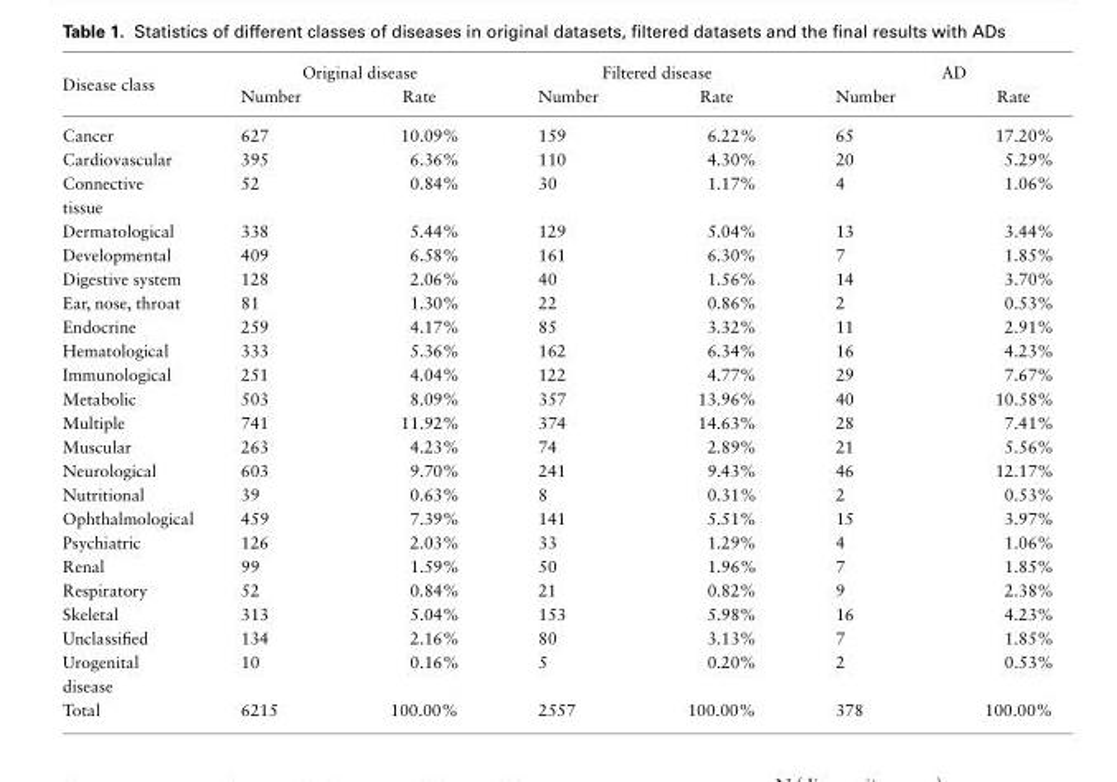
<table><thead><tr><td rowspan="2">Disease class</td><td colspan="2">Original disease</td><td colspan="2">Filtered disease</td><td colspan="2">AD</td></tr><tr><td>Number</td><td>Rate</td><td>Number</td><td>Rate</td><td>Number</td><td>Rate</td></tr></thead><tbody><tr><td>Cancer</td><td>627</td><td>10.09%</td><td>159</td><td>6.22%</td><td>65</td><td>17.20%</td></tr><tr><td>Cardiovascular</td><td>395</td><td>6.36%</td><td>110</td><td>4.30%</td><td>20</td><td>5.29%</td></tr><tr><td>Connective tissue</td><td>52</td><td>0.84%</td><td>30</td><td>1.17%</td><td>4</td><td>1.06%</td></tr><tr><td>Dermatological</td><td>338</td><td>5.44%</td><td>129</td><td>5.04%</td><td>13</td><td>3.44%</td></tr><tr><td>Developmental</td><td>409</td><td>6.58%</td><td>161</td><td>6.30%</td><td>7</td><td>1.85%</td></tr><tr><td>Digestive system</td><td>128</td><td>2.06%</td><td>40</td><td>1.56%</td><td>14</td><td>3.70%</td></tr><tr><td>Ear, nose, throat</td><td>81</td><td>1.30%</td><td>22</td><td>0.86%</td><td>2</td><td>0.53%</td></tr><tr><td>Endocrine</td><td>259</td><td>4.17%</td><td>85</td><td>3.32%</td><td>11</td><td>2.91%</td></tr><tr><td>Hematological</td><td>333</td><td>5.36%</td><td>162</td><td>6.34%</td><td>16</td><td>4.23%</td></tr><tr><td>Immunological</td><td>251</td><td>4.04%</td><td>122</td><td>4.77%</td><td>29</td><td>7.67%</td></tr><tr><td>Metabolic</td><td>503</td><td>8.09%</td><td>357</td><td>13.96%</td><td>40</td><td>10.58%</td></tr><tr><td>Multiple</td><td>741</td><td>11.92%</td><td>374</td><td>14.63%</td><td>28</td><td>7.41%</td></tr><tr><td>Muscular</td><td>263</td><td>4.23%</td><td>74</td><td>2.89%</td><td>21</td><td>5.56%</td></tr><tr><td>Neurological</td><td>603</td><td>9.70%</td><td>241</td><td>9.43%</td><td>46</td><td>12.17%</td></tr><tr><td>Nutritional</td><td>39</td><td>0.63%</td><td>8</td><td>0.31%</td><td>2</td><td>0.53%</td></tr><tr><td>Ophthalmological</td><td>459</td><td>7.39%</td><td>141</td><td>5.51%</td><td>15</td><td>3.97%</td></tr><tr><td>Psychiatric</td><td>126</td><td>2.03%</td><td>33</td><td>1.29%</td><td>4</td><td>1.06%</td></tr><tr><td>Renal</td><td>99</td><td>1.59%</td><td>50</td><td>1.96%</td><td>7</td><td>1.85%</td></tr><tr><td>Respiratory</td><td>52</td><td>0.84%</td><td>21</td><td>0.82%</td><td>9</td><td>2.38%</td></tr><tr><td>Skeletal</td><td>313</td><td>5.04%</td><td>153</td><td>5.98%</td><td>16</td><td>4.23%</td></tr><tr><td>Unclassified</td><td>134</td><td>2.16%</td><td>80</td><td>3.13%</td><td>7</td><td>1.85%</td></tr><tr><td>Urogenital disease</td><td>10</td><td>0.16%</td><td>5</td><td>0.20%</td><td>2</td><td>0.53%</td></tr><tr><td>Total</td><td>6215</td><td>100.00%</td><td>2557</td><td>100.00%</td><td>378</td><td>100.00%</td></tr></tbody></table>